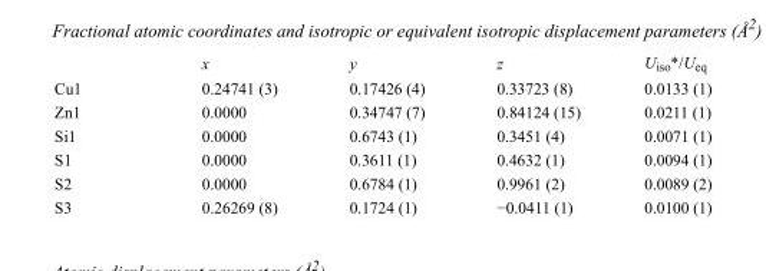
<table><thead><tr><td></td><td>x</td><td>y</td><td>z</td><td>U<sub>iso</sub>*/U<sub>eq</sub></td></tr></thead><tbody><tr><td>Cu1</td><td>0.24741 (3)</td><td>0.17426 (4)</td><td>0.33723 (8)</td><td>0.0133 (1)</td></tr><tr><td>Zn1</td><td>0.0000</td><td>0.34747 (7)</td><td>0.84124 (15)</td><td>0.0211 (1)</td></tr><tr><td>Si1</td><td>0.0000</td><td>0.6743 (1)</td><td>0.3451 (4)</td><td>0.0071 (1)</td></tr><tr><td>S1</td><td>0.0000</td><td>0.3611 (1)</td><td>0.4632 (1)</td><td>0.0094 (1)</td></tr><tr><td>S2</td><td>0.0000</td><td>0.6784 (1)</td><td>0.9961 (2)</td><td>0.0089 (2)</td></tr><tr><td>S3</td><td>0.26269 (8)</td><td>0.1724 (1)</td><td>−0.0411 (1)</td><td>0.0100 (1)</td></tr></tbody></table>